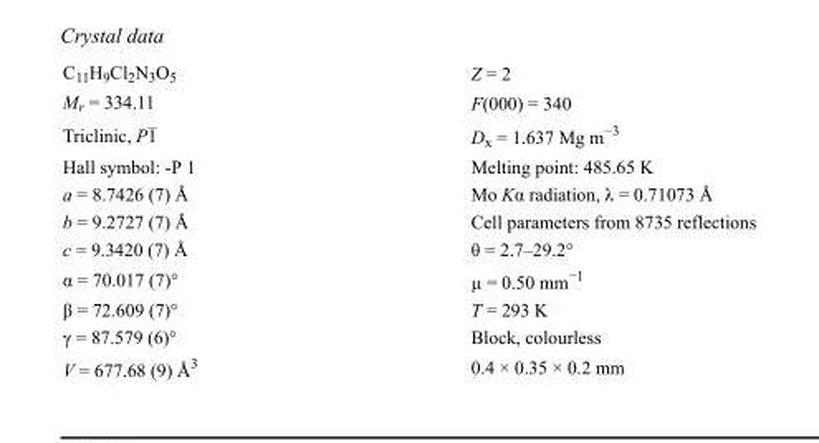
<table><tbody><tr><td>C<sub>11</sub>H<sub>9</sub>Cl<sub>2</sub>N<sub>3</sub>O<sub>5</sub></td><td>Z = 2</td></tr><tr><td>M<sub>r</sub> = 334.11</td><td>F(000) = 340</td></tr><tr><td>Triclinic, P1</td><td>D<sub>x</sub> = 1.637 Mg m<sup>−3</sup></td></tr><tr><td>Hall symbol: -P 1</td><td>Melting point: 485.65 K</td></tr><tr><td>a = 8.7426 (7) Å</td><td>Mo Kα radiation, λ = 0.71073 Å</td></tr><tr><td>b = 9.2727 (7) Å</td><td>Cell parameters from 8735 reflections</td></tr><tr><td>c = 9.3420 (7) Å</td><td>θ = 2.7–29.2°</td></tr><tr><td>α = 70.017 (7)°</td><td>µ = 0.50 mm<sup>−1</sup></td></tr><tr><td>β = 72.609 (7)°</td><td>T = 293 K</td></tr><tr><td>γ = 87.579 (6)°</td><td>Block, colourless</td></tr><tr><td>V = 677.68 (9) Å<sup>3</sup></td><td>0.4 × 0.35 × 0.2 mm</td></tr></tbody></table>